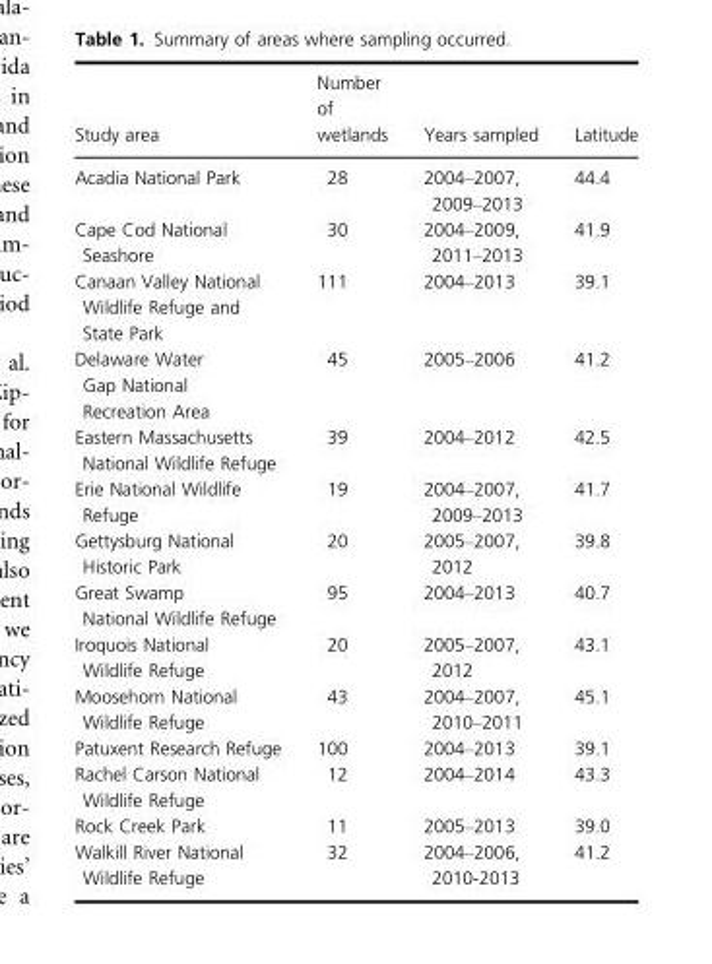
<table><thead><tr><td>Study area</td><td>Number of wetlands</td><td>Years sampled</td><td>Latitude</td></tr></thead><tbody><tr><td>Acadia National Park</td><td>28</td><td>2004–2007, 2009–2013</td><td>44.4</td></tr><tr><td>Cape Cod National Seashore</td><td>30</td><td>2004–2009, 2011–2013</td><td>41.9</td></tr><tr><td>Canaan Valley National Wildlife Refuge and State Park</td><td>111</td><td>2004–2013</td><td>39.1</td></tr><tr><td>Delaware Water Gap National Recreation Area</td><td>45</td><td>2005–2006</td><td>41.2</td></tr><tr><td>Eastern Massachusetts National Wildlife Refuge</td><td>39</td><td>2004–2012</td><td>42.5</td></tr><tr><td>Erie National Wildlife Refuge</td><td>19</td><td>2004–2007, 2009–2013</td><td>41.7</td></tr><tr><td>Gettysburg National Historic Park</td><td>20</td><td>2005–2007, 2012</td><td>39.8</td></tr><tr><td>Great Swamp National Wildlife Refuge</td><td>95</td><td>2004–2013</td><td>40.7</td></tr><tr><td>Iroquois National Wildlife Refuge</td><td>20</td><td>2005–2007, 2012</td><td>43.1</td></tr><tr><td>Moosehorn National Wildlife Refuge</td><td>43</td><td>2004–2007, 2010–2011</td><td>45.1</td></tr><tr><td>Patuxent Research Refuge</td><td>100</td><td>2004–2013</td><td>39.1</td></tr><tr><td>Rachel Carson National Wildlife Refuge</td><td>12</td><td>2004–2014</td><td>43.3</td></tr><tr><td>Rock Creek Park</td><td>11</td><td>2005–2013</td><td>39.0</td></tr><tr><td>Walkill River National Wildlife Refuge</td><td>32</td><td>2004–2006, 2010-2013</td><td>41.2</td></tr></tbody></table>